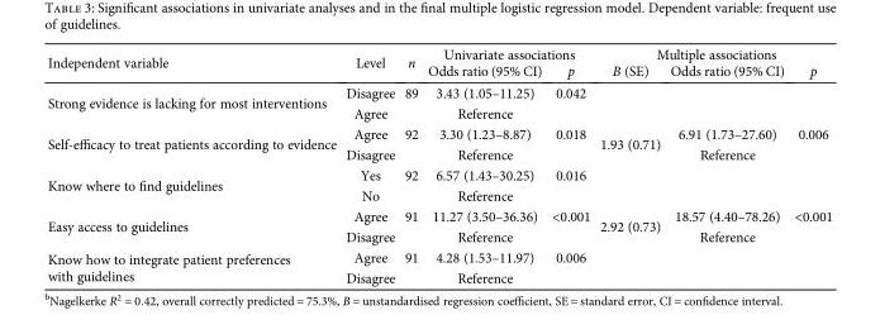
<table><thead><tr><td rowspan="2">Independent variable</td><td rowspan="2">Level</td><td rowspan="2">n</td><td colspan="2">Univariate associations</td><td colspan="3">Multiple associations</td></tr><tr><td>Odds ratio (95% CI)</td><td>p</td><td>B (SE)</td><td>Odds ratio (95% CI)</td><td>p</td></tr></thead><tbody><tr><td rowspan="2">Strong evidence is lacking for most interventions</td><td>Disagree</td><td>89</td><td>3.43 (1.05–11.25)</td><td>0.042</td><td rowspan="2"></td><td rowspan="2"></td><td rowspan="2"></td></tr><tr><td>Agree</td><td></td><td>Reference</td><td></td></tr><tr><td rowspan="2">Self-efficacy to treat patients according to evidence</td><td>Agree</td><td>92</td><td>3.30 (1.23–8.87)</td><td>0.018</td><td rowspan="2">1.93 (0.71)</td><td>6.91 (1.73–27.60)</td><td>0.006</td></tr><tr><td>Disagree</td><td></td><td>Reference</td><td></td><td>Reference</td><td></td></tr><tr><td rowspan="2">Know where to find guidelines</td><td>Yes</td><td>92</td><td>6.57 (1.43–30.25)</td><td>0.016</td><td rowspan="2"></td><td rowspan="2"></td><td rowspan="2"></td></tr><tr><td>No</td><td></td><td>Reference</td><td></td></tr><tr><td rowspan="2">Easy access to guidelines</td><td>Agree</td><td>91</td><td>11.27 (3.50–36.36)</td><td>&lt;0.001</td><td rowspan="2">2.92 (0.73)</td><td>18.57 (4.40–78.26)</td><td>&lt;0.001</td></tr><tr><td>Disagree</td><td></td><td>Reference</td><td></td><td>Reference</td><td></td></tr><tr><td rowspan="2">Know how to integrate patient preferences with guidelines</td><td>Agree</td><td>91</td><td>4.28 (1.53–11.97)</td><td>0.006</td><td rowspan="2"></td><td rowspan="2"></td><td rowspan="2"></td></tr><tr><td>Disagree</td><td></td><td>Reference</td><td></td></tr></tbody></table>